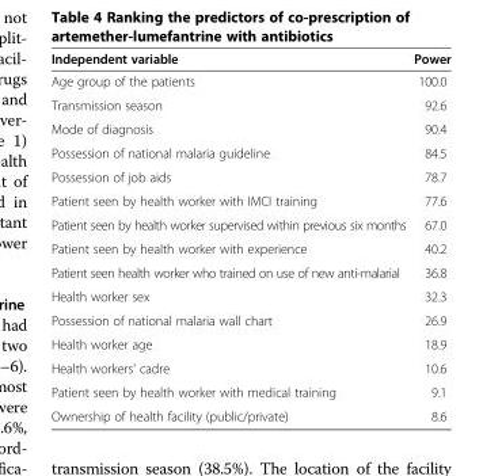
<table><thead><tr><td>Independent variable</td><td>Power</td></tr></thead><tbody><tr><td>Age group of the patients</td><td>100.0</td></tr><tr><td>Transmission season</td><td>92.6</td></tr><tr><td>Mode of diagnosis</td><td>90.4</td></tr><tr><td>Possession of national malaria guideline</td><td>84.5</td></tr><tr><td>Possession of job aids</td><td>78.7</td></tr><tr><td>Patient seen by health worker with IMCI training</td><td>77.6</td></tr><tr><td>Patient seen by health worker supervised within previous six months</td><td>67.0</td></tr><tr><td>Patient seen by health worker with experience</td><td>40.2</td></tr><tr><td>Patient seen health worker who trained on use of new anti-malarial</td><td>36.8</td></tr><tr><td>Health worker sex</td><td>32.3</td></tr><tr><td>Possession of national malaria wall chart</td><td>26.9</td></tr><tr><td>Health worker age</td><td>18.9</td></tr><tr><td>Health workers&#x27; cadre</td><td>10.6</td></tr><tr><td>Patient seen by health worker with medical training</td><td>9.1</td></tr><tr><td>Ownership of health facility (public/private)</td><td>8.6</td></tr></tbody></table>